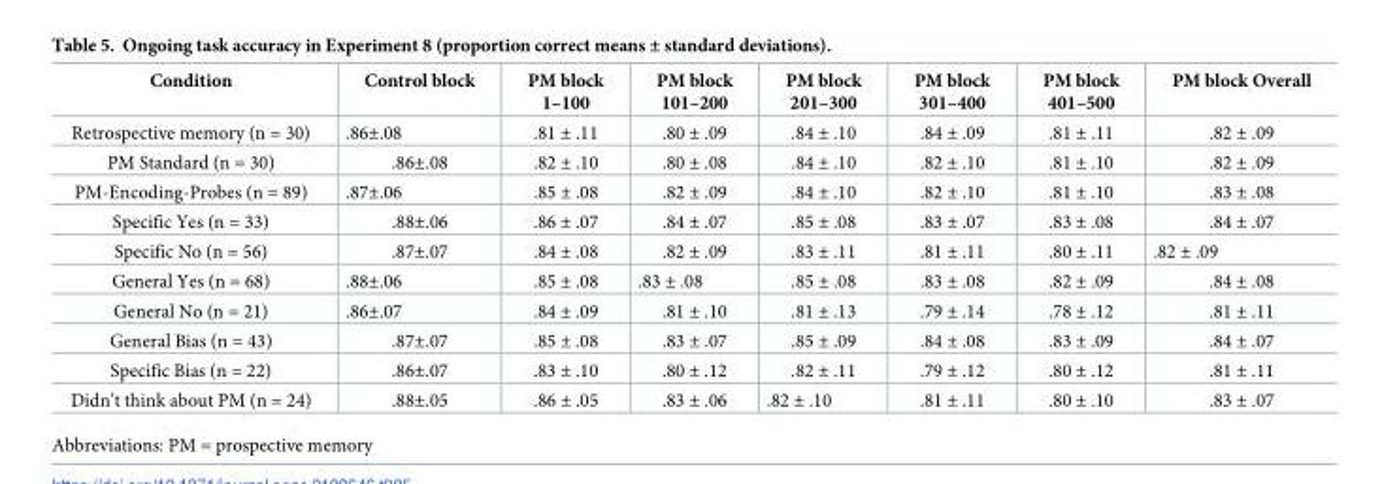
<table><thead><tr><td>Condition</td><td>Control block</td><td>PM block 1–100</td><td>PM block 101–200</td><td>PM block 201–300</td><td>PM block 301–400</td><td>PM block 401–500</td><td>PM block Overall</td></tr></thead><tbody><tr><td>Retrospective memory (n = 30)</td><td>.86±.08</td><td>.81 ± .11</td><td>.80 ± .09</td><td>.84 ± .10</td><td>.84 ± .09</td><td>.81 ± .11</td><td>.82 ± .09</td></tr><tr><td>PM Standard (n = 30)</td><td>.86±.08</td><td>.82 ± .10</td><td>.80 ± .08</td><td>.84 ± .10</td><td>.82 ± .10</td><td>.81 ± .10</td><td>.82 ± .09</td></tr><tr><td>PM-Encoding-Probes (n = 89)</td><td>.87±.06</td><td>.85 ± .08</td><td>.82 ± .09</td><td>.84 ± .10</td><td>.82 ± .10</td><td>.81 ± .10</td><td>.83 ± .08</td></tr><tr><td>Specific Yes (n = 33)</td><td>.88±.06</td><td>.86 ± .07</td><td>.84 ± .07</td><td>.85 ± .08</td><td>.83 ± .07</td><td>.83 ± .08</td><td>.84 ± .07</td></tr><tr><td>Specific No (n = 56)</td><td>.87±.07</td><td>.84 ± .08</td><td>.82 ± .09</td><td>.83 ± .11</td><td>.81 ± .11</td><td>.80 ± .11</td><td>.82 ± .09</td></tr><tr><td>General Yes (n = 68)</td><td>.88±.06</td><td>.85 ± .08</td><td>.83 ± .08</td><td>.85 ± .08</td><td>.83 ± .08</td><td>.82 ± .09</td><td>.84 ± .08</td></tr><tr><td>General No (n = 21)</td><td>.86±.07</td><td>.84 ± .09</td><td>.81 ± .10</td><td>.81 ± .13</td><td>.79 ± .14</td><td>.78 ± .12</td><td>.81 ± .11</td></tr><tr><td>General Bias (n = 43)</td><td>.87±.07</td><td>.85 ± .08</td><td>.83 ± .07</td><td>.85 ± .09</td><td>.84 ± .08</td><td>.83 ± .09</td><td>.84 ± .07</td></tr><tr><td>Specific Bias (n = 22)</td><td>.86±.07</td><td>.83 ± .10</td><td>.80 ± .12</td><td>.82 ± .11</td><td>.79 ± .12</td><td>.80 ± .12</td><td>.81 ± .11</td></tr><tr><td>Didn’t think about PM (n = 24)</td><td>.88±.05</td><td>.86 ± .05</td><td>.83 ± .06</td><td>.82 ± .10</td><td>.81 ± .11</td><td>.80 ± .10</td><td>.83 ± .07</td></tr></tbody></table>